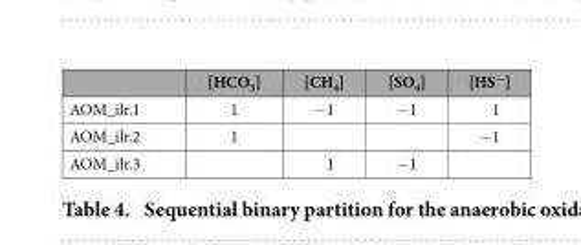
<table><thead><tr><td></td><td>[HCO<sub>3</sub>]</td><td>[CH<sub>4</sub>]</td><td>[SO<sub>4</sub>]</td><td>[HS<sup>−</sup>]</td></tr></thead><tbody><tr><td>AOM_ilr.1</td><td>1</td><td>− 1</td><td>− 1</td><td>1</td></tr><tr><td>AOM_ilr.2</td><td>1</td><td></td><td></td><td>− 1</td></tr><tr><td>AOM_ilr.3</td><td></td><td>1</td><td>− 1</td><td></td></tr></tbody></table>